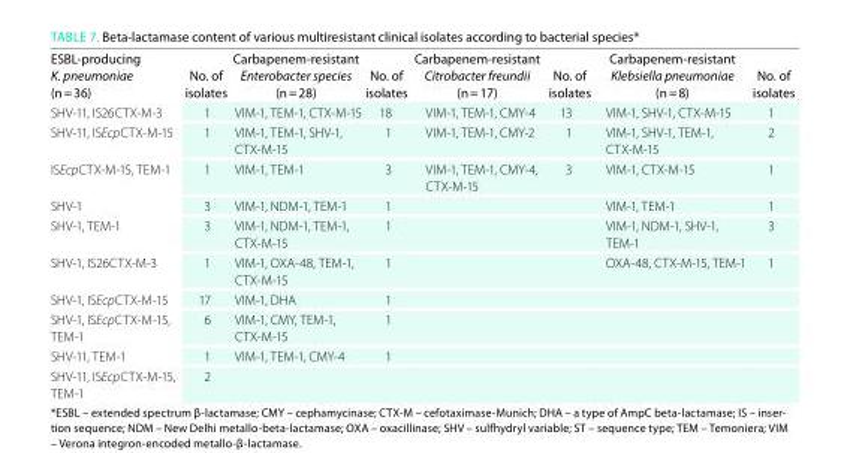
<table><thead><tr><td>ESBL-producing K. pneumoniae (n = 36)</td><td>No. of isolates</td><td>Carbapenem-resistant Enterobacter species (n = 28)</td><td>No. of isolates</td><td>Carbapenem-resistant Citrobacter freundii (n = 17)</td><td>No. of isolates</td><td>Carbapenem-resistant Klebsiella pneumoniae (n = 8)</td><td>No. of isolates</td></tr></thead><tbody><tr><td>SHV-11, IS26CTX-M-3</td><td>1</td><td>VIM-1, TEM-1, CTX-M-15</td><td>18</td><td>VIM-1, TEM-1, CMY-4</td><td>13</td><td>VIM-1, SHV-1, CTX-M-15</td><td>1</td></tr><tr><td>SHV-11, ISEcpCTX-M-15</td><td>1</td><td>VIM-1, TEM-1, SHV-1, CTX-M-15</td><td>1</td><td>VIM-1, TEM-1, CMY-2</td><td>1</td><td>VIM-1, SHV-1, TEM-1, CTX-M-15</td><td>2</td></tr><tr><td>ISEcpCTX-M-15, TEM-1</td><td>1</td><td>VIM-1, TEM-1</td><td>3</td><td>VIM-1, TEM-1, CMY-4, CTX-M-15</td><td>3</td><td>VIM-1, CTX-M-15</td><td>1</td></tr><tr><td>SHV-1</td><td>3</td><td>VIM-1, NDM-1, TEM-1</td><td>1</td><td></td><td></td><td>VIM-1, TEM-1</td><td>1</td></tr><tr><td>SHV-1, TEM-1</td><td>3</td><td>VIM-1, NDM-1, TEM-1, CTX-M-15</td><td>1</td><td></td><td></td><td>VIM-1, NDM-1, SHV-1, TEM-1</td><td>3</td></tr><tr><td>SHV-1, IS26CTX-M-3</td><td>1</td><td>VIM-1, OXA-48, TEM-1, CTX-M-15</td><td>1</td><td></td><td></td><td>OXA-48, CTX-M-15, TEM-1</td><td>1</td></tr><tr><td>SHV-1, ISEcpCTX-M-15</td><td>17</td><td>VIM-1, DHA</td><td>1</td><td></td><td></td><td></td><td></td></tr><tr><td>SHV-1, ISEcpCTX-M-15, TEM-1</td><td>6</td><td>VIM-1, CMY, TEM-1, CTX-M-15</td><td>1</td><td></td><td></td><td></td><td></td></tr><tr><td>SHV-11, TEM-1</td><td>1</td><td>VIM-1, TEM-1, CMY-4</td><td>1</td><td></td><td></td><td></td><td></td></tr><tr><td>SHV-11, ISEcpCTX-M-15, TEM-1</td><td>2</td><td></td><td></td><td></td><td></td><td></td><td></td></tr></tbody></table>